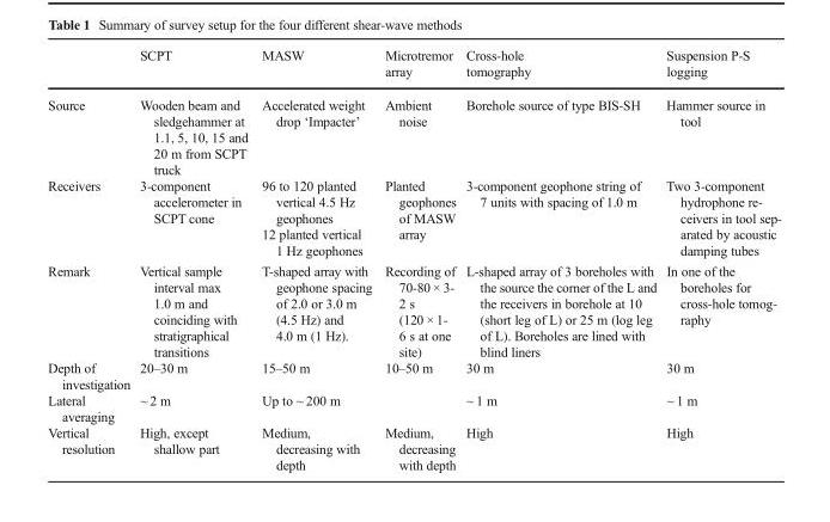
<table><thead><tr><td></td><td>SCPT</td><td>MASW</td><td>Microtremor array</td><td>Cross-hole tomography</td><td>Suspension P-S logging</td></tr></thead><tbody><tr><td>Source</td><td>Wooden beam and sledgehammer at 1.1, 5, 10, 15 and 20 m from SCPT truck</td><td>Accelerated weight drop ‘Impacter’</td><td>Ambient noise</td><td>Borehole source of type BIS-SH</td><td>Hammer source in tool</td></tr><tr><td rowspan="2">Receivers</td><td rowspan="2">3-component accelerometer in SCPT cone</td><td>96 to 120 planted vertical 4.5 Hz geophones</td><td rowspan="2">Planted geophones of MASW array</td><td rowspan="2">3-component geophone string of 7 units with spacing of 1.0 m</td><td rowspan="2">Two 3-component hydrophone re- ceivers in tool sep- arated by acoustic damping tubes</td></tr><tr><td>12 planted vertical 1 Hz geophones</td></tr><tr><td>Remark</td><td>Vertical sample interval max 1.0 m and coinciding with stratigraphical transitions</td><td>T-shaped array with geophone spacing of 2.0 or 3.0 m (4.5 Hz) and 4.0 m (1 Hz).</td><td>Recording of 70-80 × 3- 2 s (120 × 1- 6 s at one site)</td><td>L-shaped array of 3 boreholes with the source the corner of the L and the receivers in borehole at 10 (short leg of L) or 25 m (log leg of L). Boreholes are lined with blind liners</td><td>In one of the boreholes for cross-hole tomog- raphy</td></tr><tr><td>Depth of investigation</td><td>20–30 m</td><td>15–50 m</td><td>10–50 m</td><td>30 m</td><td>30 m</td></tr><tr><td>Lateral averaging</td><td>~ 2 m</td><td>Up to ~ 200 m</td><td></td><td>~ 1 m</td><td>~ 1 m</td></tr><tr><td>Vertical resolution</td><td>High, except shallow part</td><td>Medium, decreasing with depth</td><td>Medium, decreasing with depth</td><td>High</td><td>High</td></tr></tbody></table>